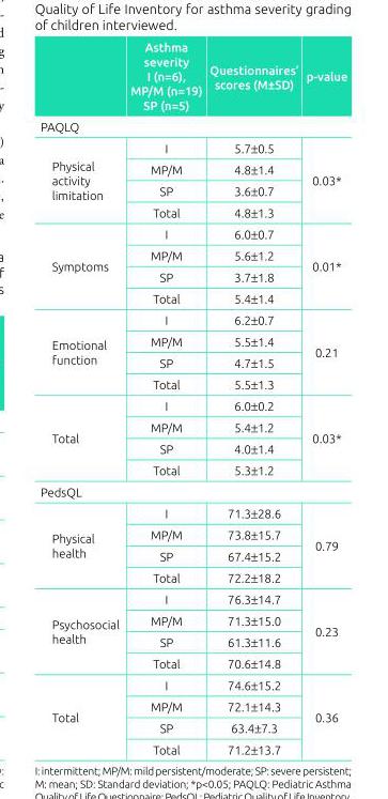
<table><thead><tr><td></td><td>Asthma severity I (n=6), MP/M (n=19) SP (n=5)</td><td>Questionnaires’ scores (M±SD)</td><td>p-value</td></tr></thead><tbody><tr><td colspan="4">PAQLQ</td></tr><tr><td rowspan="4">Physical activity limitation</td><td>I</td><td>5.7±0.5</td><td rowspan="4">0.03*</td></tr><tr><td>MP/M</td><td>4.8±1.4</td></tr><tr><td>SP</td><td>3.6±0.7</td></tr><tr><td>Total</td><td>4.8±1.3</td></tr><tr><td rowspan="4">Symptoms</td><td>I</td><td>6.0±0.7</td><td rowspan="4">0.01*</td></tr><tr><td>MP/M</td><td>5.6±1.2</td></tr><tr><td>SP</td><td>3.7±1.8</td></tr><tr><td>Total</td><td>5.4±1.4</td></tr><tr><td rowspan="4">Emotional function</td><td>I</td><td>6.2±0.7</td><td rowspan="4">0.21</td></tr><tr><td>MP/M</td><td>5.5±1.4</td></tr><tr><td>SP</td><td>4.7±1.5</td></tr><tr><td>Total</td><td>5.5±1.3</td></tr><tr><td rowspan="4">Total</td><td>I</td><td>6.0±0.2</td><td rowspan="4">0.03*</td></tr><tr><td>MP/M</td><td>5.4±1.2</td></tr><tr><td>SP</td><td>4.0±1.4</td></tr><tr><td>Total</td><td>5.3±1.2</td></tr><tr><td colspan="4">PedsQL</td></tr><tr><td rowspan="4">Physical health</td><td>I</td><td>71.3±28.6</td><td rowspan="4">0.79</td></tr><tr><td>MP/M</td><td>73.8±15.7</td></tr><tr><td>SP</td><td>67.4±15.2</td></tr><tr><td>Total</td><td>72.2±18.2</td></tr><tr><td rowspan="4">Psychosocial health</td><td>I</td><td>76.3±14.7</td><td rowspan="4">0.23</td></tr><tr><td>MP/M</td><td>71.3±15.0</td></tr><tr><td>SP</td><td>61.3±11.6</td></tr><tr><td>Total</td><td>70.6±14.8</td></tr><tr><td rowspan="4">Total</td><td>I</td><td>74.6±15.2</td><td rowspan="4">0.36</td></tr><tr><td>MP/M</td><td>72.1±14.3</td></tr><tr><td>SP</td><td>63.4±7.3</td></tr><tr><td>Total</td><td>71.2±13.7</td></tr></tbody></table>